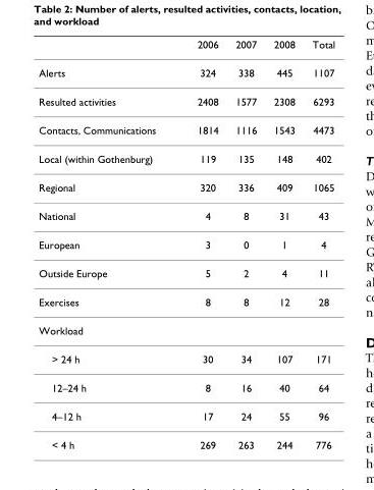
<table><thead><tr><td></td><td>2006</td><td>2007</td><td>2008</td><td>Total</td></tr></thead><tbody><tr><td>Alerts</td><td>324</td><td>338</td><td>445</td><td>1107</td></tr><tr><td>Resulted activities</td><td>2408</td><td>1577</td><td>2308</td><td>6293</td></tr><tr><td>Contacts, Communications</td><td>1814</td><td>1116</td><td>1543</td><td>4473</td></tr><tr><td>Local (within Gothenburg)</td><td>119</td><td>135</td><td>148</td><td>402</td></tr><tr><td>Regional</td><td>320</td><td>336</td><td>409</td><td>1065</td></tr><tr><td>National</td><td>4</td><td>8</td><td>31</td><td>43</td></tr><tr><td>European</td><td>3</td><td>0</td><td>1</td><td>4</td></tr><tr><td>Outside Europe</td><td>5</td><td>2</td><td>4</td><td>11</td></tr><tr><td>Exercises</td><td>8</td><td>8</td><td>12</td><td>28</td></tr><tr><td colspan="5">Workload</td></tr><tr><td>&gt; 24 h</td><td>30</td><td>34</td><td>107</td><td>171</td></tr><tr><td>12–24 h</td><td>8</td><td>16</td><td>40</td><td>64</td></tr><tr><td>4–12 h</td><td>17</td><td>24</td><td>55</td><td>96</td></tr><tr><td>&lt; 4 h</td><td>269</td><td>263</td><td>244</td><td>776</td></tr></tbody></table>